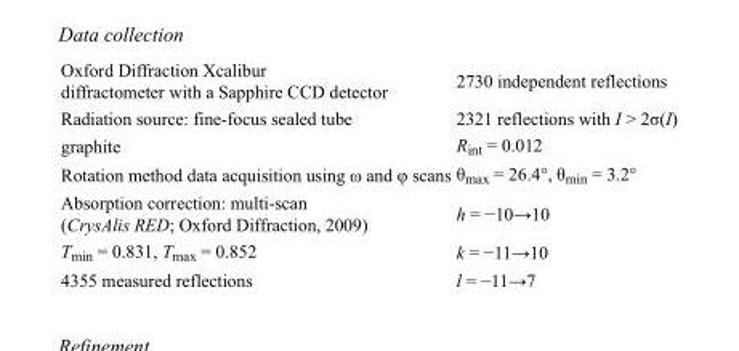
<table><tbody><tr><td>Oxford Diffraction Xcalibur diffractometer with a Sapphire CCD detector</td><td>2730 independent reflections</td></tr><tr><td>Radiation source: fine-focus sealed tube</td><td>2321 reflections with I &gt; 2σ(I)</td></tr><tr><td>graphite</td><td>R<sub>int</sub> = 0.012</td></tr><tr><td>Rotation method data acquisition using ω and φ scans</td><td>θ<sub>max</sub> = 26.4°, θ<sub>min</sub> = 3.2°</td></tr><tr><td>Absorption correction: multi-scan (CrysAlis RED; Oxford Diffraction, 2009)</td><td>h = −10→10</td></tr><tr><td>T<sub>min</sub> = 0.831, T<sub>max</sub> = 0.852</td><td>k = −11→10</td></tr><tr><td>4355 measured reflections</td><td>l = −11→7</td></tr></tbody></table>